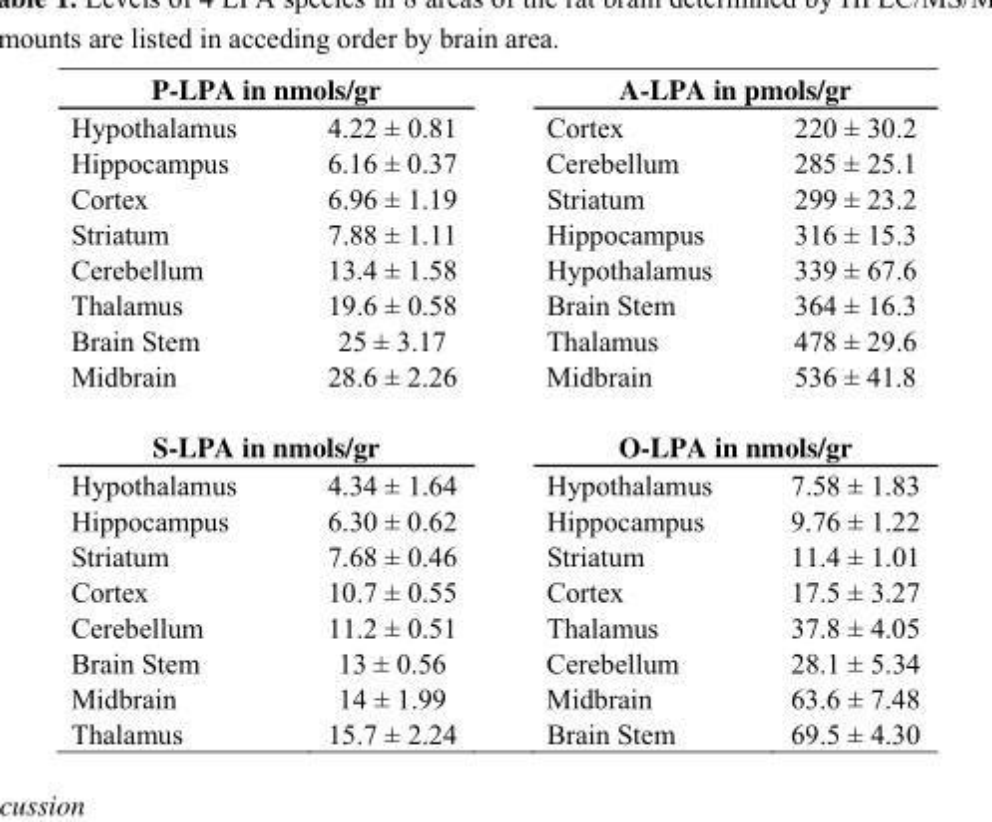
<table><thead><tr><td colspan="2">P-LPA in nmols/gr</td><td colspan="2">A-LPA in pmols/gr</td></tr><tr><td>Hypothalamus</td><td>4.22 ± 0.81</td><td>Cortex</td><td>220 ± 30.2</td></tr></thead><tbody><tr><td>Hippocampus</td><td>6.16 ± 0.37</td><td>Cerebellum</td><td>285 ± 25.1</td></tr><tr><td>Cortex</td><td>6.96 ± 1.19</td><td>Striatum</td><td>299 ± 23.2</td></tr><tr><td>Striatum</td><td>7.88 ± 1.11</td><td>Hippocampus</td><td>316 ± 15.3</td></tr><tr><td>Cerebellum</td><td>13.4 ± 1.58</td><td>Hypothalamus</td><td>339 ± 67.6</td></tr><tr><td>Thalamus</td><td>19.6 ± 0.58</td><td>Brain Stem</td><td>364 ± 16.3</td></tr><tr><td>Brain Stem</td><td>25 ± 3.17</td><td>Thalamus</td><td>478 ± 29.6</td></tr><tr><td>Midbrain</td><td>28.6 ± 2.26</td><td>Midbrain</td><td>536 ± 41.8</td></tr><tr><td colspan="2">S-LPA in nmols/gr</td><td colspan="2">O-LPA in nmols/gr</td></tr><tr><td>Hypothalamus</td><td>4.34 ± 1.64</td><td>Hypothalamus</td><td>7.58 ± 1.83</td></tr><tr><td>Hippocampus</td><td>6.30 ± 0.62</td><td>Hippocampus</td><td>9.76 ± 1.22</td></tr><tr><td>Striatum</td><td>7.68 ± 0.46</td><td>Striatum</td><td>11.4 ± 1.01</td></tr><tr><td>Cortex</td><td>10.7 ± 0.55</td><td>Cortex</td><td>17.5 ± 3.27</td></tr><tr><td>Cerebellum</td><td>11.2 ± 0.51</td><td>Thalamus</td><td>37.8 ± 4.05</td></tr><tr><td>Brain Stem</td><td>13 ± 0.56</td><td>Cerebellum</td><td>28.1 ± 5.34</td></tr><tr><td>Midbrain</td><td>14 ± 1.99</td><td>Midbrain</td><td>63.6 ± 7.48</td></tr><tr><td>Thalamus</td><td>15.7 ± 2.24</td><td>Brain Stem</td><td>69.5 ± 4.30</td></tr></tbody></table>